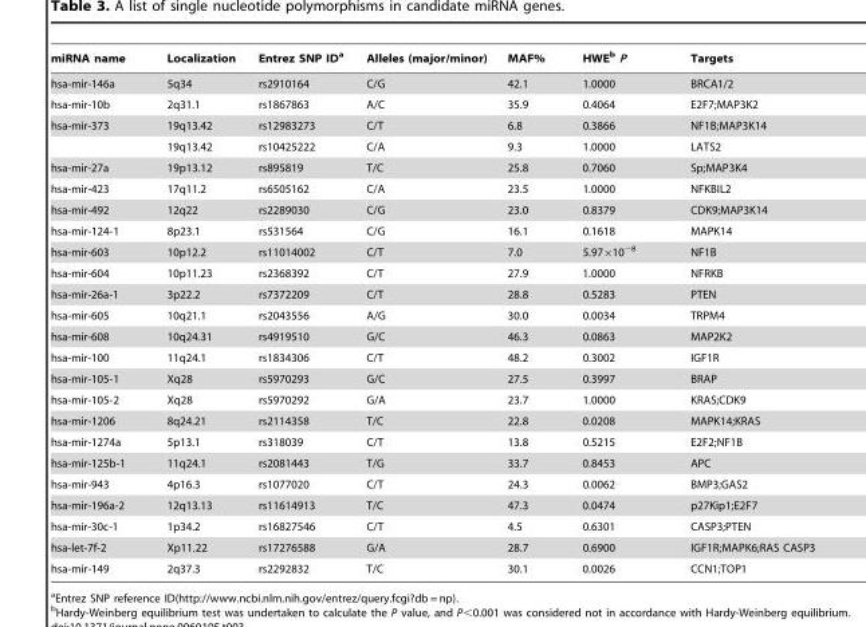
<table><thead><tr><td>miRNA name</td><td>Localization</td><td>Entrez SNP ID<sup>a</sup></td><td>Alleles (major/minor)</td><td>MAF%</td><td>HWE<sup>b</sup> P</td><td>Targets</td></tr></thead><tbody><tr><td>hsa-mir-146a</td><td>5q34</td><td>rs2910164</td><td>C/G</td><td>42.1</td><td>1.0000</td><td>BRCA1/2</td></tr><tr><td>hsa-mir-10b</td><td>2q31.1</td><td>rs1867863</td><td>A/C</td><td>35.9</td><td>0.4064</td><td>E2F7;MAP3K2</td></tr><tr><td rowspan="2">hsa-mir-373</td><td>19q13.42</td><td>rs12983273</td><td>C/T</td><td>6.8</td><td>0.3866</td><td>NF1B;MAP3K14</td></tr><tr><td>19q13.42</td><td>rs10425222</td><td>C/A</td><td>9.3</td><td>1.0000</td><td>LATS2</td></tr><tr><td>hsa-mir-27a</td><td>19p13.12</td><td>rs895819</td><td>T/C</td><td>25.8</td><td>0.7060</td><td>Sp;MAP3K4</td></tr><tr><td>hsa-mir-423</td><td>17q11.2</td><td>rs6505162</td><td>C/A</td><td>23.5</td><td>1.0000</td><td>NFKBIL2</td></tr><tr><td>hsa-mir-492</td><td>12q22</td><td>rs2289030</td><td>C/G</td><td>23.0</td><td>0.8379</td><td>CDK9;MAP3K14</td></tr><tr><td>hsa-mir-124-1</td><td>8p23.1</td><td>rs531564</td><td>C/G</td><td>16.1</td><td>0.1618</td><td>MAPK14</td></tr><tr><td>hsa-mir-603</td><td>10p12.2</td><td>rs11014002</td><td>C/T</td><td>7.0</td><td>5.97×10<sup>−8</sup></td><td>NF1B</td></tr><tr><td>hsa-mir-604</td><td>10p11.23</td><td>rs2368392</td><td>C/T</td><td>27.9</td><td>1.0000</td><td>NFRKB</td></tr><tr><td>hsa-mir-26a-1</td><td>3p22.2</td><td>rs7372209</td><td>C/T</td><td>28.8</td><td>0.5283</td><td>PTEN</td></tr><tr><td>hsa-mir-605</td><td>10q21.1</td><td>rs2043556</td><td>A/G</td><td>30.0</td><td>0.0034</td><td>TRPM4</td></tr><tr><td>hsa-mir-608</td><td>10q24.31</td><td>rs4919510</td><td>G/C</td><td>46.3</td><td>0.0863</td><td>MAP2K2</td></tr><tr><td>hsa-mir-100</td><td>11q24.1</td><td>rs1834306</td><td>C/T</td><td>48.2</td><td>0.3002</td><td>IGF1R</td></tr><tr><td>hsa-mir-105-1</td><td>Xq28</td><td>rs5970293</td><td>G/C</td><td>27.5</td><td>0.3997</td><td>BRAP</td></tr><tr><td>hsa-mir-105-2</td><td>Xq28</td><td>rs5970292</td><td>G/A</td><td>23.7</td><td>1.0000</td><td>KRAS;CDK9</td></tr><tr><td>hsa-mir-1206</td><td>8q24.21</td><td>rs2114358</td><td>T/C</td><td>22.8</td><td>0.0208</td><td>MAPK14;KRAS</td></tr><tr><td>hsa-mir-1274a</td><td>5p13.1</td><td>rs318039</td><td>C/T</td><td>13.8</td><td>0.5215</td><td>E2F2;NF1B</td></tr><tr><td>hsa-mir-125b-1</td><td>11q24.1</td><td>rs2081443</td><td>T/G</td><td>33.7</td><td>0.8453</td><td>APC</td></tr><tr><td>hsa-mir-943</td><td>4p16.3</td><td>rs1077020</td><td>C/T</td><td>24.3</td><td>0.0062</td><td>BMP3;GAS2</td></tr><tr><td>hsa-mir-196a-2</td><td>12q13.13</td><td>rs11614913</td><td>T/C</td><td>47.3</td><td>0.0474</td><td>p27Kip1;E2F7</td></tr><tr><td>hsa-mir-30c-1</td><td>1p34.2</td><td>rs16827546</td><td>C/T</td><td>4.5</td><td>0.6301</td><td>CASP3;PTEN</td></tr><tr><td>hsa-let-7f-2</td><td>Xp11.22</td><td>rs17276588</td><td>G/A</td><td>28.7</td><td>0.6900</td><td>IGF1R;MAPK6;RAS CASP3</td></tr><tr><td>hsa-mir-149</td><td>2q37.3</td><td>rs2292832</td><td>T/C</td><td>30.1</td><td>0.0026</td><td>CCN1;TOP1</td></tr></tbody></table>